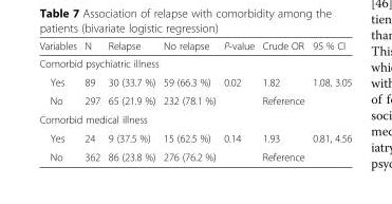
<table><thead><tr><td>Variables</td><td>N</td><td>Relapse</td><td>No relapse</td><td>P-value</td><td>Crude OR</td><td>95 % CI</td></tr></thead><tbody><tr><td colspan="7">Comorbid psychiatric illness</td></tr><tr><td>Yes</td><td>89</td><td>30 (33.7 %)</td><td>59 (66.3 %)</td><td>0.02</td><td>1.82</td><td>1.08, 3.05</td></tr><tr><td>No</td><td>297</td><td>65 (21.9 %)</td><td>232 (78.1 %)</td><td></td><td>Reference</td><td></td></tr><tr><td colspan="7">Comorbid medical illness</td></tr><tr><td>Yes</td><td>24</td><td>9 (37.5 %)</td><td>15 (62.5 %)</td><td>0.14</td><td>1.93</td><td>0.81, 4.56</td></tr><tr><td>No</td><td>362</td><td>86 (23.8 %)</td><td>276 (76.2 %)</td><td></td><td>Reference</td><td></td></tr></tbody></table>